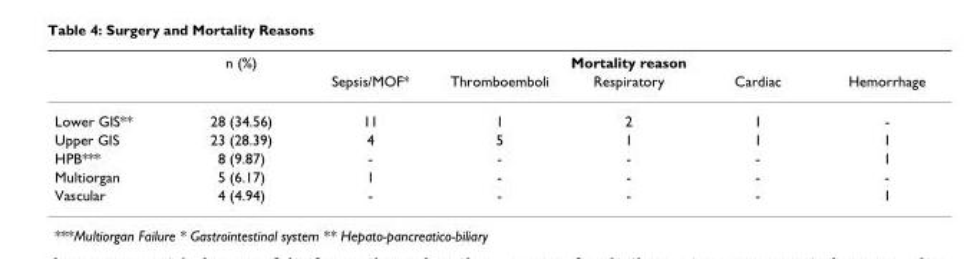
<table><thead><tr><td rowspan="2"></td><td rowspan="2">n (%)</td><td colspan="5">Mortality reason</td></tr><tr><td>Sepsis/MOF*</td><td>Thromboemboli</td><td>Respiratory</td><td>Cardiac</td><td>Hemorrhage</td></tr></thead><tbody><tr><td>Lower GIS**</td><td>28 (34.56)</td><td>11</td><td>1</td><td>2</td><td>1</td><td>-</td></tr><tr><td>Upper GIS</td><td>23 (28.39)</td><td>4</td><td>5</td><td>1</td><td>1</td><td>1</td></tr><tr><td>HPB***</td><td>8 (9.87)</td><td>-</td><td>-</td><td>-</td><td>-</td><td>1</td></tr><tr><td>Multiorgan</td><td>5 (6.17)</td><td>1</td><td>-</td><td>-</td><td>-</td><td>-</td></tr><tr><td>Vascular</td><td>4 (4.94)</td><td>-</td><td>-</td><td>-</td><td>-</td><td>1</td></tr></tbody></table>